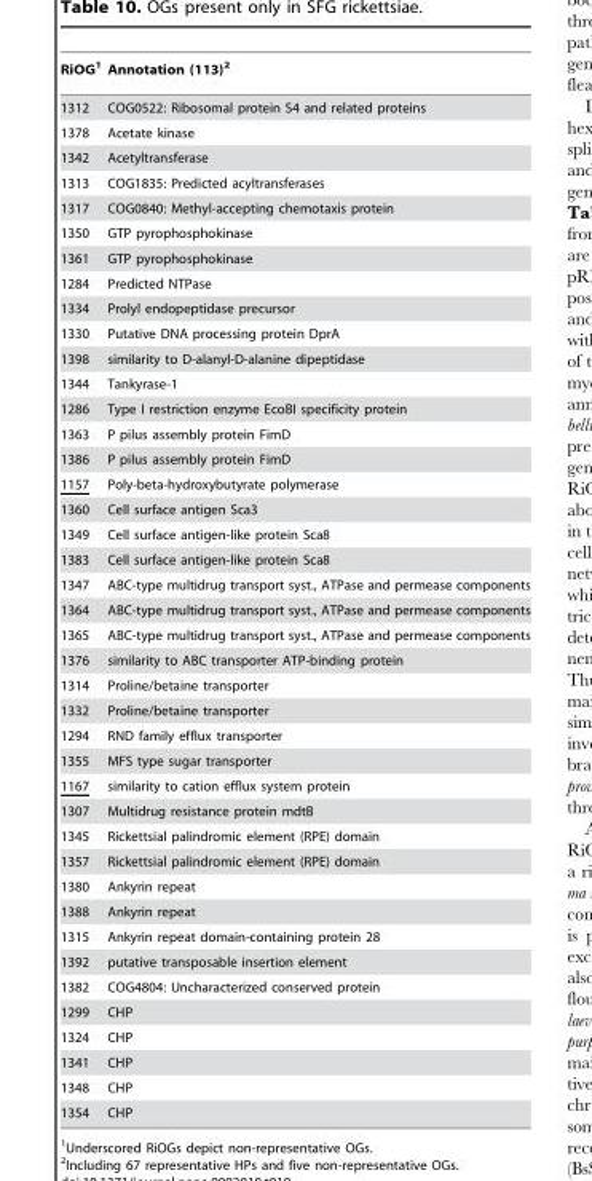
<table><thead><tr><td>RiOG<sup>1</sup></td><td>Annotation (113)<sup>2</sup></td></tr></thead><tbody><tr><td>1312</td><td>COG0522: Ribosomal protein S4 and related proteins</td></tr><tr><td>1378</td><td>Acetate kinase</td></tr><tr><td>1342</td><td>Acetyltransferase</td></tr><tr><td>1313</td><td>COG1835: Predicted acyltransferases</td></tr><tr><td>1317</td><td>COG0840: Methyl-accepting chemotaxis protein</td></tr><tr><td>1350</td><td>GTP pyrophosphokinase</td></tr><tr><td>1361</td><td>GTP pyrophosphokinase</td></tr><tr><td>1284</td><td>Predicted NTPase</td></tr><tr><td>1334</td><td>Prolyl endopeptidase precursor</td></tr><tr><td>1330</td><td>Putative DNA processing protein DprA</td></tr><tr><td>1398</td><td>similarity to D-alanyl-D-alanine dipeptidase</td></tr><tr><td>1344</td><td>Tankyrase-1</td></tr><tr><td>1286</td><td>Type I restriction enzyme EcoBI specificity protein</td></tr><tr><td>1363</td><td>P pilus assembly protein FimD</td></tr><tr><td>1386</td><td>P pilus assembly protein FimD</td></tr><tr><td>1157</td><td>Poly-beta-hydroxybutyrate polymerase</td></tr><tr><td>1360</td><td>Cell surface antigen Sca3</td></tr><tr><td>1349</td><td>Cell surface antigen-like protein Sca8</td></tr><tr><td>1383</td><td>Cell surface antigen-like protein Sca8</td></tr><tr><td>1347</td><td>ABC-type multidrug transport syst., ATPase and permease components</td></tr><tr><td>1364</td><td>ABC-type multidrug transport syst., ATPase and permease components</td></tr><tr><td>1365</td><td>ABC-type multidrug transport syst., ATPase and permease components</td></tr><tr><td>1376</td><td>similarity to ABC transporter ATP-binding protein</td></tr><tr><td>1314</td><td>Proline/betaine transporter</td></tr><tr><td>1332</td><td>Proline/betaine transporter</td></tr><tr><td>1294</td><td>RND family efflux transporter</td></tr><tr><td>1355</td><td>MFS type sugar transporter</td></tr><tr><td>1167</td><td>similarity to cation efflux system protein</td></tr><tr><td>1307</td><td>Multidrug resistance protein mdtB</td></tr><tr><td>1345</td><td>Rickettsial palindromic element (RPE) domain</td></tr><tr><td>1357</td><td>Rickettsial palindromic element (RPE) domain</td></tr><tr><td>1380</td><td>Ankyrin repeat</td></tr><tr><td>1388</td><td>Ankyrin repeat</td></tr><tr><td>1315</td><td>Ankyrin repeat domain-containing protein 28</td></tr><tr><td>1392</td><td>putative transposable insertion element</td></tr><tr><td>1382</td><td>COG4804: Uncharacterized conserved protein</td></tr><tr><td>1299</td><td>CHP</td></tr><tr><td>1324</td><td>CHP</td></tr><tr><td>1341</td><td>CHP</td></tr><tr><td>1348</td><td>CHP</td></tr><tr><td>1354</td><td>CHP</td></tr></tbody></table>